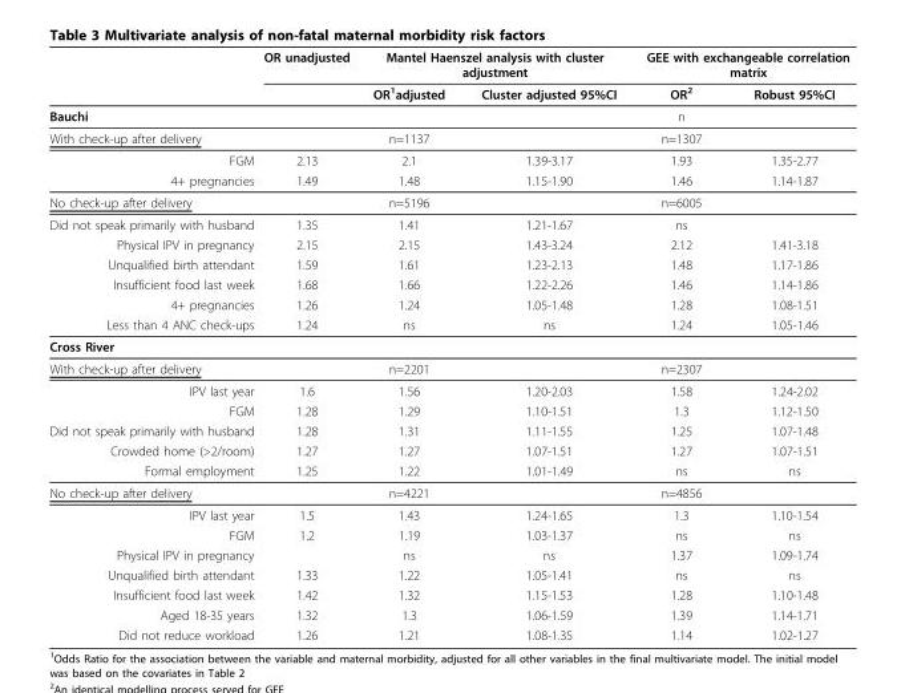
<table><thead><tr><td rowspan="2"></td><td rowspan="2">OR unadjusted</td><td colspan="2">Mantel Haenszel analysis with cluster adjustment</td><td colspan="2">GEE with exchangeable correlation matrix</td></tr><tr><td>OR<sup>1</sup>adjusted</td><td>Cluster adjusted 95%CI</td><td>OR<sup>2</sup></td><td>Robust 95%CI</td></tr></thead><tbody><tr><td>Bauchi</td><td></td><td></td><td></td><td>n</td><td></td></tr><tr><td>With check-up after delivery</td><td></td><td>n=1137</td><td></td><td>n=1307</td><td></td></tr><tr><td>FGM</td><td>2.13</td><td>2.1</td><td>1.39-3.17</td><td>1.93</td><td>1.35-2.77</td></tr><tr><td>4+ pregnancies</td><td>1.49</td><td>1.48</td><td>1.15-1.90</td><td>1.46</td><td>1.14-1.87</td></tr><tr><td>No check-up after delivery</td><td></td><td>n=5196</td><td></td><td>n=6005</td><td></td></tr><tr><td>Did not speak primarily with husband</td><td>1.35</td><td>1.41</td><td>1.21-1.67</td><td>ns</td><td></td></tr><tr><td>Physical IPV in pregnancy</td><td>2.15</td><td>2.15</td><td>1.43-3.24</td><td>2.12</td><td>1.41-3.18</td></tr><tr><td>Unqualified birth attendant</td><td>1.59</td><td>1.61</td><td>1.23-2.13</td><td>1.48</td><td>1.17-1.86</td></tr><tr><td>Insufficient food last week</td><td>1.68</td><td>1.66</td><td>1.22-2.26</td><td>1.46</td><td>1.14-1.86</td></tr><tr><td>4+ pregnancies</td><td>1.26</td><td>1.24</td><td>1.05-1.48</td><td>1.28</td><td>1.08-1.51</td></tr><tr><td>Less than 4 ANC check-ups</td><td>1.24</td><td>ns</td><td>ns</td><td>1.24</td><td>1.05-1.46</td></tr><tr><td colspan="6">Cross River</td></tr><tr><td>With check-up after delivery</td><td></td><td>n=2201</td><td></td><td>n=2307</td><td></td></tr><tr><td>IPV last year</td><td>1.6</td><td>1.56</td><td>1.20-2.03</td><td>1.58</td><td>1.24-2.02</td></tr><tr><td>FGM</td><td>1.28</td><td>1.29</td><td>1.10-1.51</td><td>1.3</td><td>1.12-1.50</td></tr><tr><td>Did not speak primarily with husband</td><td>1.28</td><td>1.31</td><td>1.11-1.55</td><td>1.25</td><td>1.07-1.48</td></tr><tr><td>Crowded home (&gt;2/room)</td><td>1.27</td><td>1.27</td><td>1.07-1.51</td><td>1.27</td><td>1.07-1.51</td></tr><tr><td>Formal employment</td><td>1.25</td><td>1.22</td><td>1.01-1.49</td><td>ns</td><td>ns</td></tr><tr><td>No check-up after delivery</td><td></td><td>n=4221</td><td></td><td>n=4856</td><td></td></tr><tr><td>IPV last year</td><td>1.5</td><td>1.43</td><td>1.24-1.65</td><td>1.3</td><td>1.10-1.54</td></tr><tr><td>FGM</td><td>1.2</td><td>1.19</td><td>1.03-1.37</td><td>ns</td><td>ns</td></tr><tr><td>Physical IPV in pregnancy</td><td></td><td>ns</td><td>ns</td><td>1.37</td><td>1.09-1.74</td></tr><tr><td>Unqualified birth attendant</td><td>1.33</td><td>1.22</td><td>1.05-1.41</td><td>ns</td><td>ns</td></tr><tr><td>Insufficient food last week</td><td>1.42</td><td>1.32</td><td>1.15-1.53</td><td>1.28</td><td>1.10-1.48</td></tr><tr><td>Aged 18-35 years</td><td>1.32</td><td>1.3</td><td>1.06-1.59</td><td>1.39</td><td>1.14-1.71</td></tr><tr><td>Did not reduce workload</td><td>1.26</td><td>1.21</td><td>1.08-1.35</td><td>1.14</td><td>1.02-1.27</td></tr></tbody></table>